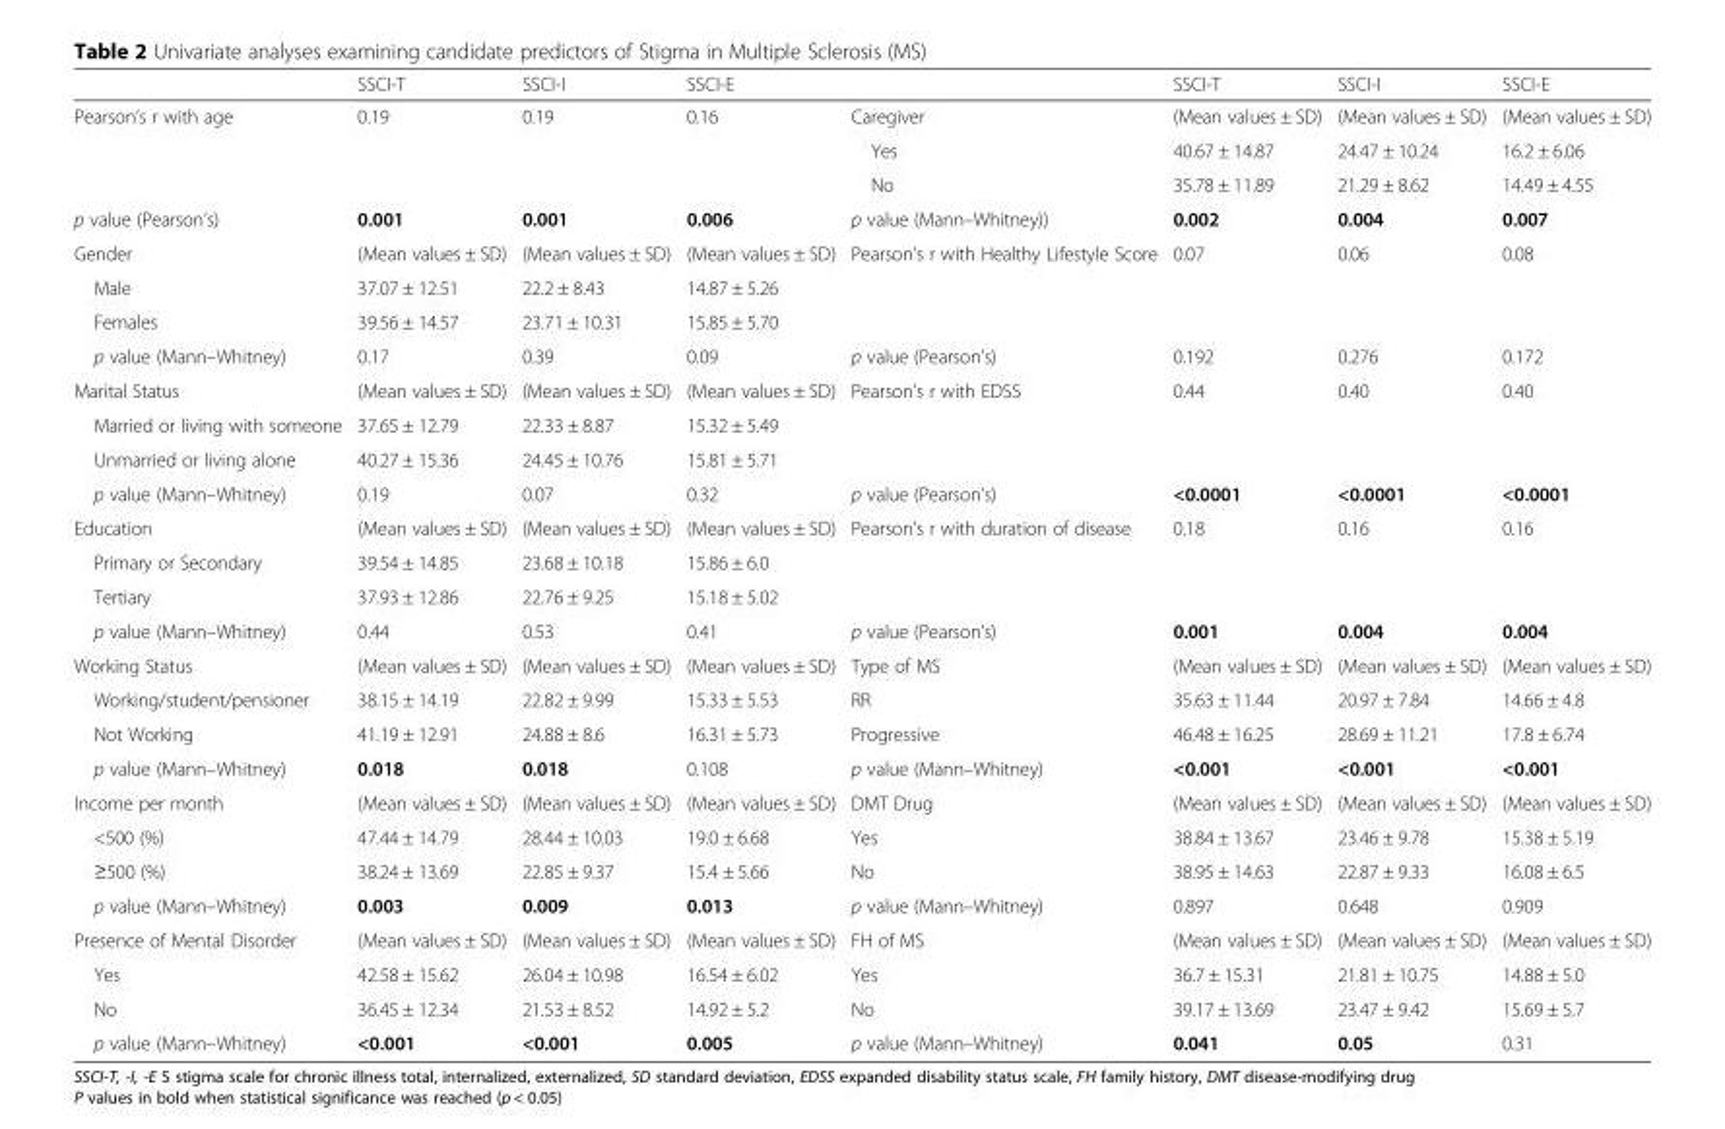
<table><thead><tr><td></td><td>SSCI-T</td><td>SSCI-I</td><td>SSCI-E</td><td></td><td>SSCI-T</td><td>SSCI-I</td><td>SSCI-E</td></tr></thead><tbody><tr><td rowspan="3">Pearson’s r with age</td><td>0.19</td><td>0.19</td><td>0.16</td><td>Caregiver</td><td>(Mean values ± SD)</td><td>(Mean values ± SD)</td><td>(Mean values ± SD)</td></tr><tr><td rowspan="2"></td><td rowspan="2"></td><td rowspan="2"></td><td>Yes</td><td>40.67 ± 14.87</td><td>24.47 ± 10.24</td><td>16.2 ± 6.06</td></tr><tr><td>No</td><td>35.78 ± 11.89</td><td>21.29 ± 8.62</td><td>14.49 ± 4.55</td></tr><tr><td>p value (Pearson’s)</td><td>0.001</td><td>0.001</td><td>0.006</td><td>p value (Mann–Whitney))</td><td>0.002</td><td>0.004</td><td>0.007</td></tr><tr><td>Gender</td><td>(Mean values ± SD)</td><td>(Mean values ± SD)</td><td>(Mean values ± SD)</td><td>Pearson’s r with Healthy Lifestyle Score</td><td>0.07</td><td>0.06</td><td>0.08</td></tr><tr><td>Male</td><td>37.07 ± 12.51</td><td>22.2 ± 8.43</td><td>14.87 ± 5.26</td><td></td><td></td><td></td><td></td></tr><tr><td>Females</td><td>39.56 ± 14.57</td><td>23.71 ± 10.31</td><td>15.85 ± 5.70</td><td></td><td></td><td></td><td></td></tr><tr><td>p value (Mann–Whitney)</td><td>0.17</td><td>0.39</td><td>0.09</td><td>p value (Pearson’s)</td><td>0.192</td><td>0.276</td><td>0.172</td></tr><tr><td>Marital Status</td><td>(Mean values ± SD)</td><td>(Mean values ± SD)</td><td>(Mean values ± SD)</td><td>Pearson’s r with EDSS</td><td>0.44</td><td>0.40</td><td>0.40</td></tr><tr><td>Married or living with someone</td><td>37.65 ± 12.79</td><td>22.33 ± 8.87</td><td>15.32 ± 5.49</td><td></td><td></td><td></td><td></td></tr><tr><td>Unmarried or living alone</td><td>40.27 ± 15.36</td><td>24.45 ± 10.76</td><td>15.81 ± 5.71</td><td></td><td></td><td></td><td></td></tr><tr><td>p value (Mann–Whitney)</td><td>0.19</td><td>0.07</td><td>0.32</td><td>p value (Pearson’s)</td><td>&lt;0.0001</td><td>&lt;0.0001</td><td>&lt;0.0001</td></tr><tr><td>Education</td><td>(Mean values ± SD)</td><td>(Mean values ± SD)</td><td>(Mean values ± SD)</td><td>Pearson’s r with duration of disease</td><td>0.18</td><td>0.16</td><td>0.16</td></tr><tr><td>Primary or Secondary</td><td>39.54 ± 14.85</td><td>23.68 ± 10.18</td><td>15.86 ± 6.0</td><td></td><td></td><td></td><td></td></tr><tr><td>Tertiary</td><td>37.93 ± 12.86</td><td>22.76 ± 9.25</td><td>15.18 ± 5.02</td><td></td><td></td><td></td><td></td></tr><tr><td>p value (Mann–Whitney)</td><td>0.44</td><td>0.53</td><td>0.41</td><td>p value (Pearson’s)</td><td>0.001</td><td>0.004</td><td>0.004</td></tr><tr><td>Working Status</td><td>(Mean values ± SD)</td><td>(Mean values ± SD)</td><td>(Mean values ± SD)</td><td>Type of MS</td><td>(Mean values ± SD)</td><td>(Mean values ± SD)</td><td>(Mean values ± SD)</td></tr><tr><td>Working/student/pensioner</td><td>38.15 ± 14.19</td><td>22.82 ± 9.99</td><td>15.33 ± 5.53</td><td>RR</td><td>35.63 ± 11.44</td><td>20.97 ± 7.84</td><td>14.66 ± 4.8</td></tr><tr><td>Not Working</td><td>41.19 ± 12.91</td><td>24.88 ± 8.6</td><td>16.31 ± 5.73</td><td>Progressive</td><td>46.48 ± 16.25</td><td>28.69 ± 11.21</td><td>17.8 ± 6.74</td></tr><tr><td>p value (Mann–Whitney)</td><td>0.018</td><td>0.018</td><td>0.108</td><td>p value (Mann–Whitney)</td><td>&lt;0.001</td><td>&lt;0.001</td><td>&lt;0.001</td></tr><tr><td>Income per month</td><td>(Mean values ± SD)</td><td>(Mean values ± SD)</td><td>(Mean values ± SD)</td><td>DMT Drug</td><td>(Mean values ± SD)</td><td>(Mean values ± SD)</td><td>(Mean values ± SD)</td></tr><tr><td>&lt;500 (%)</td><td>47.44 ± 14.79</td><td>28.44 ± 10.03</td><td>19.0 ± 6.68</td><td>Yes</td><td>38.84 ± 13.67</td><td>23.46 ± 9.78</td><td>15.38 ± 5.19</td></tr><tr><td>≥500 (%)</td><td>38.24 ± 13.69</td><td>22.85 ± 9.37</td><td>15.4 ± 5.66</td><td>No</td><td>38.95 ± 14.63</td><td>22.87 ± 9.33</td><td>16.08 ± 6.5</td></tr><tr><td>p value (Mann–Whitney)</td><td>0.003</td><td>0.009</td><td>0.013</td><td>p value (Mann–Whitney)</td><td>0.897</td><td>0.648</td><td>0.909</td></tr><tr><td>Presence of Mental Disorder</td><td>(Mean values ± SD)</td><td>(Mean values ± SD)</td><td>(Mean values ± SD)</td><td>FH of MS</td><td>(Mean values ± SD)</td><td>(Mean values ± SD)</td><td>(Mean values ± SD)</td></tr><tr><td>Yes</td><td>42.58 ± 15.62</td><td>26.04 ± 10.98</td><td>16.54 ± 6.02</td><td>Yes</td><td>36.7 ± 15.31</td><td>21.81 ± 10.75</td><td>14.88 ± 5.0</td></tr><tr><td>No</td><td>36.45 ± 12.34</td><td>21.53 ± 8.52</td><td>14.92 ± 5.2</td><td>No</td><td>39.17 ± 13.69</td><td>23.47 ± 9.42</td><td>15.69 ± 5.7</td></tr><tr><td>p value (Mann–Whitney)</td><td>&lt;0.001</td><td>&lt;0.001</td><td>0.005</td><td>p value (Mann–Whitney)</td><td>0.041</td><td>0.05</td><td>0.31</td></tr></tbody></table>